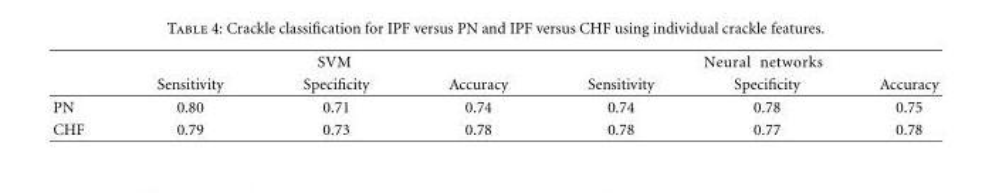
<table><thead><tr><td rowspan="2"></td><td colspan="3">SVM</td><td colspan="3">Neural networks</td></tr><tr><td>Sensitivity</td><td>Specificity</td><td>Accuracy</td><td>Sensitivity</td><td>Specificity</td><td>Accuracy</td></tr></thead><tbody><tr><td>PN</td><td>0.80</td><td>0.71</td><td>0.74</td><td>0.74</td><td>0.78</td><td>0.75</td></tr><tr><td>CHF</td><td>0.79</td><td>0.73</td><td>0.78</td><td>0.78</td><td>0.77</td><td>0.78</td></tr></tbody></table>